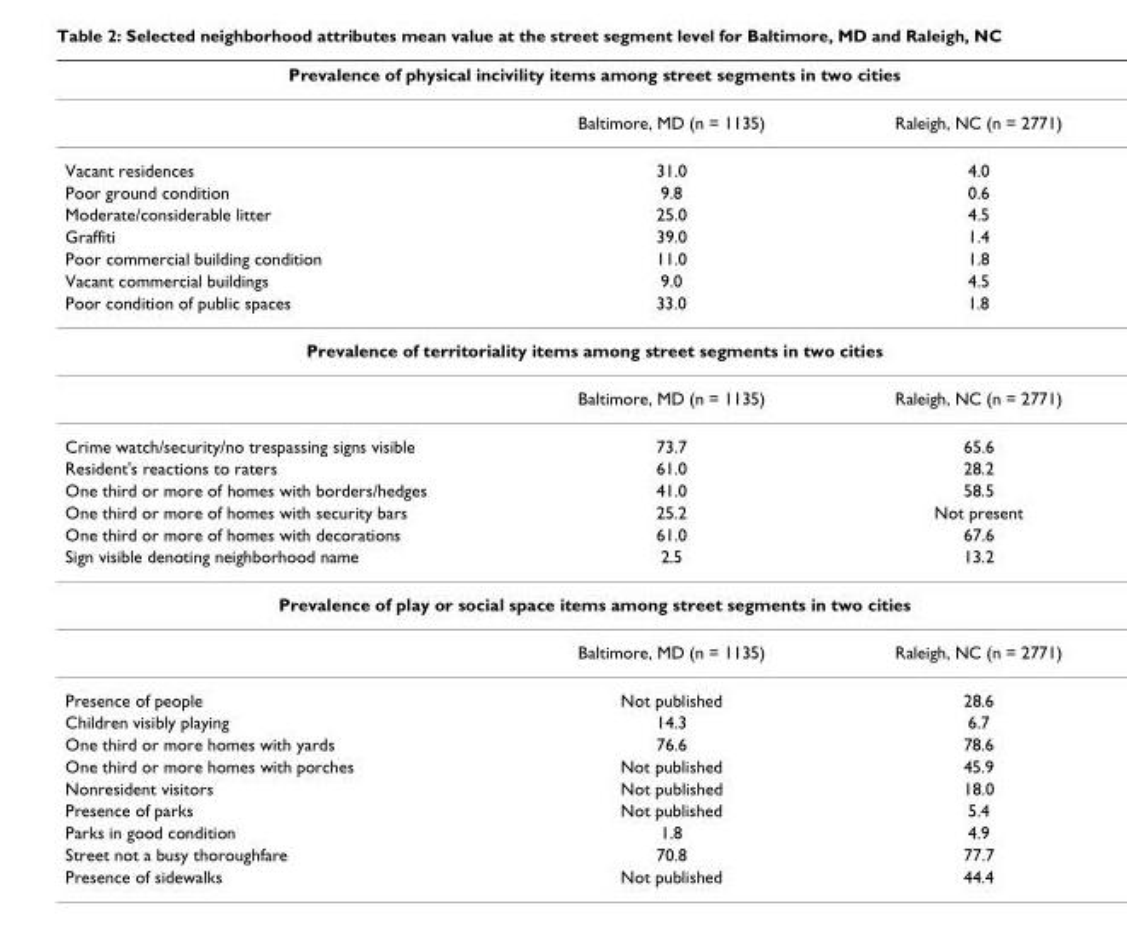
<table><thead><tr><td colspan="3">Prevalence of physical incivility items among street segments in two cities</td></tr><tr><td></td><td>Baltimore, MD (n = 1135)</td><td>Raleigh, NC (n = 2771)</td></tr></thead><tbody><tr><td>Vacant residences</td><td>31.0</td><td>4.0</td></tr><tr><td>Poor ground condition</td><td>9.8</td><td>0.6</td></tr><tr><td>Moderate/considerable litter</td><td>25.0</td><td>4.5</td></tr><tr><td>Graffiti</td><td>39.0</td><td>1.4</td></tr><tr><td>Poor commercial building condition</td><td>11.0</td><td>1.8</td></tr><tr><td>Vacant commercial buildings</td><td>9.0</td><td>4.5</td></tr><tr><td>Poor condition of public spaces</td><td>33.0</td><td>1.8</td></tr><tr><td colspan="3">Prevalence of territoriality items among street segments in two cities</td></tr><tr><td></td><td>Baltimore, MD (n = 1135)</td><td>Raleigh, NC (n = 2771)</td></tr><tr><td>Crime watch/security/no trespassing signs visible</td><td>73.7</td><td>65.6</td></tr><tr><td>Resident&#x27;s reactions to raters</td><td>61.0</td><td>28.2</td></tr><tr><td>One third or more of homes with borders/hedges</td><td>41.0</td><td>58.5</td></tr><tr><td>One third or more of homes with security bars</td><td>25.2</td><td>Not present</td></tr><tr><td>One third or more of homes with decorations</td><td>61.0</td><td>67.6</td></tr><tr><td>Sign visible denoting neighborhood name</td><td>2.5</td><td>13.2</td></tr><tr><td colspan="3">Prevalence of play or social space items among street segments in two cities</td></tr><tr><td></td><td>Baltimore, MD (n = 1135)</td><td>Raleigh, NC (n = 2771)</td></tr><tr><td>Presence of people</td><td>Not published</td><td>28.6</td></tr><tr><td>Children visibly playing</td><td>14.3</td><td>6.7</td></tr><tr><td>One third or more homes with yards</td><td>76.6</td><td>78.6</td></tr><tr><td>One third or more homes with porches</td><td>Not published</td><td>45.9</td></tr><tr><td>Nonresident visitors</td><td>Not published</td><td>18.0</td></tr><tr><td>Presence of parks</td><td>Not published</td><td>5.4</td></tr><tr><td>Parks in good condition</td><td>1.8</td><td>4.9</td></tr><tr><td>Street not a busy thoroughfare</td><td>70.8</td><td>77.7</td></tr><tr><td>Presence of sidewalks</td><td>Not published</td><td>44.4</td></tr></tbody></table>